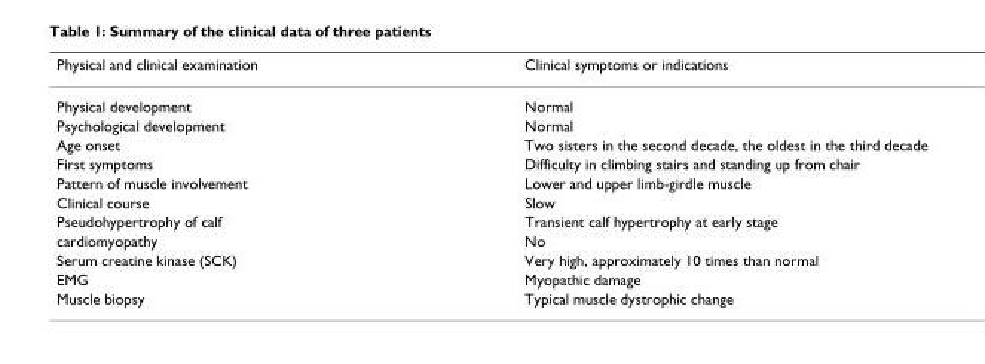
<table><thead><tr><td>Physical and clinical examination</td><td>Clinical symptoms or indications</td></tr></thead><tbody><tr><td>Physical development</td><td>Normal</td></tr><tr><td>Psychological development</td><td>Normal</td></tr><tr><td>Age onset</td><td>Two sisters in the second decade, the oldest in the third decade</td></tr><tr><td>First symptoms</td><td>Difficulty in climbing stairs and standing up from chair</td></tr><tr><td>Pattern of muscle involvement</td><td>Lower and upper limb-girdle muscle</td></tr><tr><td>Clinical course</td><td>Slow</td></tr><tr><td>Pseudohypertrophy of calf</td><td>Transient calf hypertrophy at early stage</td></tr><tr><td>cardiomyopathy</td><td>No</td></tr><tr><td>Serum creatine kinase (SCK)</td><td>Very high, approximately 10 times than normal</td></tr><tr><td>EMG</td><td>Myopathic damage</td></tr><tr><td>Muscle biopsy</td><td>Typical muscle dystrophic change</td></tr></tbody></table>